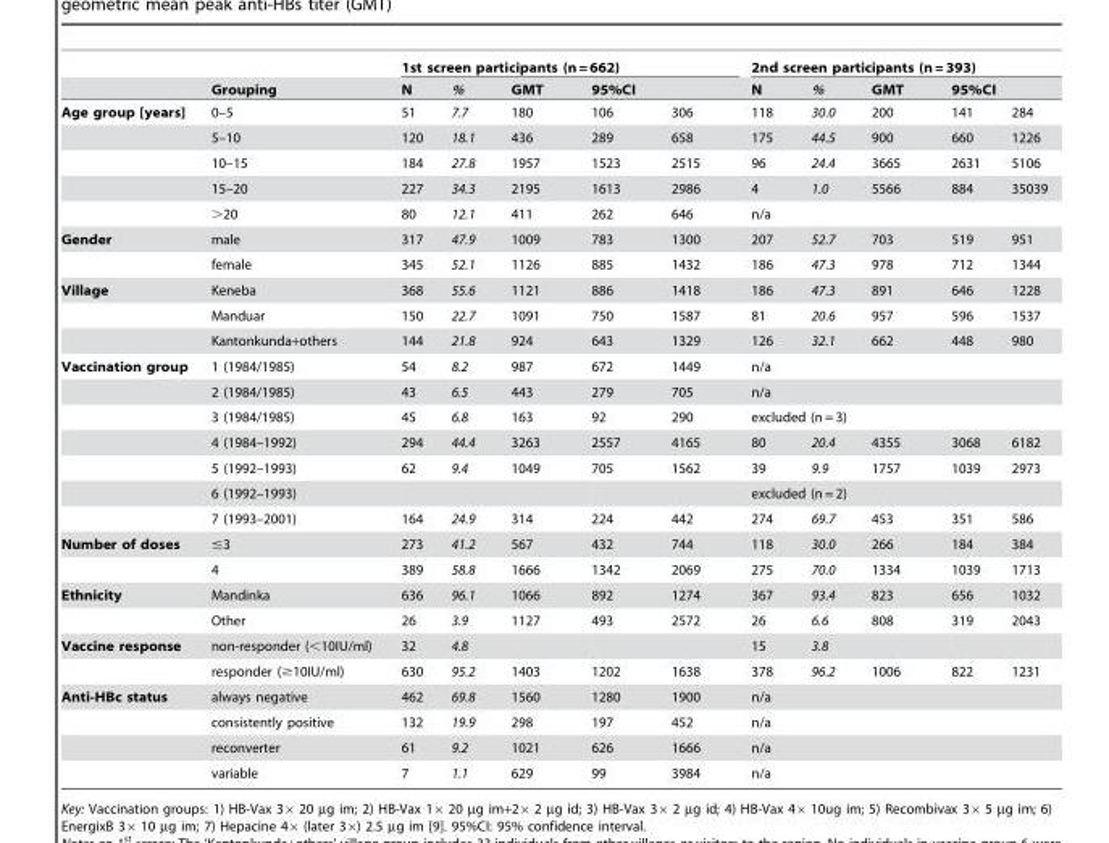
<table><thead><tr><td rowspan="3">Age group [years]</td><td rowspan="3">Grouping 0–5</td><td colspan="5">1st screen participants (n = 662)</td><td colspan="5">2nd screen participants (n = 393)</td></tr><tr><td rowspan="2">N 51</td><td rowspan="2">% 7.7</td><td rowspan="2">GMT 180</td><td colspan="2">95%CI</td><td rowspan="2">N 118</td><td rowspan="2">% 30.0</td><td rowspan="2">GMT 200</td><td colspan="2">95%CI</td></tr><tr><td>106</td><td>306</td><td>141</td><td>284</td></tr></thead><tbody><tr><td></td><td>5–10</td><td>120</td><td>18.1</td><td>436</td><td>289</td><td>658</td><td>175</td><td>44.5</td><td>900</td><td>660</td><td>1226</td></tr><tr><td></td><td>10–15</td><td>184</td><td>27.8</td><td>1957</td><td>1523</td><td>2515</td><td>96</td><td>24.4</td><td>3665</td><td>2631</td><td>5106</td></tr><tr><td></td><td>15–20</td><td>227</td><td>34.3</td><td>2195</td><td>1613</td><td>2986</td><td>4</td><td>1.0</td><td>5566</td><td>884</td><td>35039</td></tr><tr><td></td><td>&gt;20</td><td>80</td><td>12.1</td><td>411</td><td>262</td><td>646</td><td colspan="5">n/a</td></tr><tr><td rowspan="2">Gender</td><td>male</td><td>317</td><td>47.9</td><td>1009</td><td>783</td><td>1300</td><td>207</td><td>52.7</td><td>703</td><td>519</td><td>951</td></tr><tr><td>female</td><td>345</td><td>52.1</td><td>1126</td><td>885</td><td>1432</td><td>186</td><td>47.3</td><td>978</td><td>712</td><td>1344</td></tr><tr><td rowspan="3">Village</td><td>Keneba</td><td>368</td><td>55.6</td><td>1121</td><td>886</td><td>1418</td><td>186</td><td>47.3</td><td>891</td><td>646</td><td>1228</td></tr><tr><td>Manduar</td><td>150</td><td>22.7</td><td>1091</td><td>750</td><td>1587</td><td>81</td><td>20.6</td><td>957</td><td>596</td><td>1537</td></tr><tr><td>Kantonkunda+others</td><td>144</td><td>21.8</td><td>924</td><td>643</td><td>1329</td><td>126</td><td>32.1</td><td>662</td><td>448</td><td>980</td></tr><tr><td rowspan="7">Vaccination group</td><td>1 (1984/1985)</td><td>54</td><td>8.2</td><td>987</td><td>672</td><td>1449</td><td colspan="5">n/a</td></tr><tr><td>2 (1984/1985)</td><td>43</td><td>6.5</td><td>443</td><td>279</td><td>705</td><td colspan="5">n/a</td></tr><tr><td>3 (1984/1985)</td><td>45</td><td>6.8</td><td>163</td><td>92</td><td>290</td><td colspan="4">excluded (n = 3)</td><td></td></tr><tr><td>4 (1984–1992)</td><td>294</td><td>44.4</td><td>3263</td><td>2557</td><td>4165</td><td>80</td><td>20.4</td><td>4355</td><td>3068</td><td>6182</td></tr><tr><td>5 (1992–1993)</td><td>62</td><td>9.4</td><td>1049</td><td>705</td><td>1562</td><td>39</td><td>9.9</td><td>1757</td><td>1039</td><td>2973</td></tr><tr><td>6 (1992–1993)</td><td></td><td></td><td></td><td></td><td></td><td colspan="4">excluded (n = 2)</td><td></td></tr><tr><td>7 (1993–2001)</td><td>164</td><td>24.9</td><td>314</td><td>224</td><td>442</td><td>274</td><td>69.7</td><td>453</td><td>351</td><td>586</td></tr><tr><td rowspan="2">Number of doses</td><td>≤3</td><td>273</td><td>41.2</td><td>567</td><td>432</td><td>744</td><td>118</td><td>30.0</td><td>266</td><td>184</td><td>384</td></tr><tr><td>4</td><td>389</td><td>58.8</td><td>1666</td><td>1342</td><td>2069</td><td>275</td><td>70.0</td><td>1334</td><td>1039</td><td>1713</td></tr><tr><td rowspan="2">Ethnicity</td><td>Mandinka</td><td>636</td><td>96.1</td><td>1066</td><td>892</td><td>1274</td><td>367</td><td>93.4</td><td>823</td><td>656</td><td>1032</td></tr><tr><td>Other</td><td>26</td><td>3.9</td><td>1127</td><td>493</td><td>2572</td><td>26</td><td>6.6</td><td>808</td><td>319</td><td>2043</td></tr><tr><td rowspan="2">Vaccine response</td><td>non-responder (&lt;10IU/ml)</td><td>32</td><td>4.8</td><td></td><td></td><td></td><td>15</td><td>3.8</td><td></td><td></td><td></td></tr><tr><td>responder (≥10IU/ml)</td><td>630</td><td>95.2</td><td>1403</td><td>1202</td><td>1638</td><td>378</td><td>96.2</td><td>1006</td><td>822</td><td>1231</td></tr><tr><td rowspan="4">Anti-HBc status</td><td>always negative</td><td>462</td><td>69.8</td><td>1560</td><td>1280</td><td>1900</td><td colspan="5">n/a</td></tr><tr><td>consistently positive</td><td>132</td><td>19.9</td><td>298</td><td>197</td><td>452</td><td colspan="5">n/a</td></tr><tr><td>reconverter</td><td>61</td><td>9.2</td><td>1021</td><td>626</td><td>1666</td><td colspan="5">n/a</td></tr><tr><td>variable</td><td>7</td><td>1.1</td><td>629</td><td>99</td><td>3984</td><td colspan="5">n/a</td></tr></tbody></table>